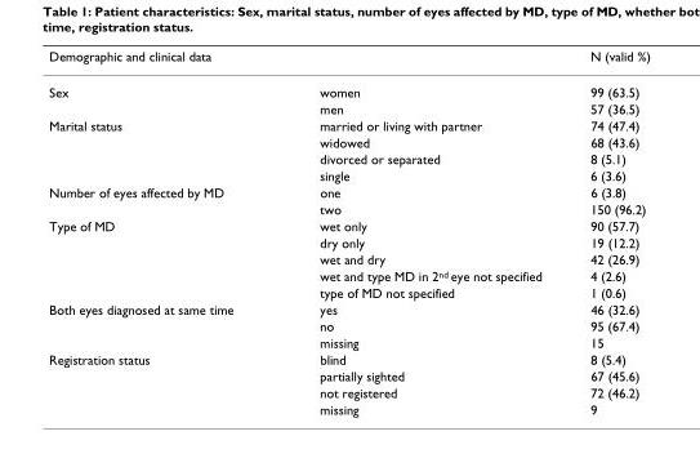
<table><thead><tr><td>Demographic and clinical data</td><td></td><td>N (valid %)</td></tr></thead><tbody><tr><td rowspan="2">Sex</td><td>women</td><td>99 (63.5)</td></tr><tr><td>men</td><td>57 (36.5)</td></tr><tr><td rowspan="4">Marital status</td><td>married or living with partner</td><td>74 (47.4)</td></tr><tr><td>widowed</td><td>68 (43.6)</td></tr><tr><td>divorced or separated</td><td>8 (5.1)</td></tr><tr><td>single</td><td>6 (3.6)</td></tr><tr><td rowspan="2">Number of eyes affected by MD</td><td>one</td><td>6 (3.8)</td></tr><tr><td>two</td><td>150 (96.2)</td></tr><tr><td rowspan="5">Type of MD</td><td>wet only</td><td>90 (57.7)</td></tr><tr><td>dry only</td><td>19 (12.2)</td></tr><tr><td>wet and dry</td><td>42 (26.9)</td></tr><tr><td>wet and type MD in 2<sup>nd</sup> eye not specified</td><td>4 (2.6)</td></tr><tr><td>type of MD not specified</td><td>1 (0.6)</td></tr><tr><td rowspan="3">Both eyes diagnosed at same time</td><td>yes</td><td>46 (32.6)</td></tr><tr><td>no</td><td>95 (67.4)</td></tr><tr><td>missing</td><td>15</td></tr><tr><td rowspan="4">Registration status</td><td>blind</td><td>8 (5.4)</td></tr><tr><td>partially sighted</td><td>67 (45.6)</td></tr><tr><td>not registered</td><td>72 (46.2)</td></tr><tr><td>missing</td><td>9</td></tr></tbody></table>